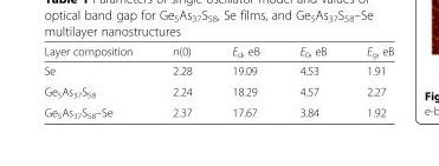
<table><thead><tr><td>Layer composition</td><td>n(0)</td><td>E<sub>d</sub>, еВ</td><td>E<sub>0</sub>, еВ</td><td>E<sub>g</sub>, еВ</td></tr></thead><tbody><tr><td>Se</td><td>2.28</td><td>19.09</td><td>4.53</td><td>1.91</td></tr><tr><td>Ge<sub>5</sub>As<sub>37</sub>S<sub>58</sub></td><td>2.24</td><td>18.29</td><td>4.57</td><td>2.27</td></tr><tr><td>Ge<sub>5</sub>As<sub>37</sub>S<sub>58</sub>–Se</td><td>2.37</td><td>17.67</td><td>3.84</td><td>1.92</td></tr></tbody></table>